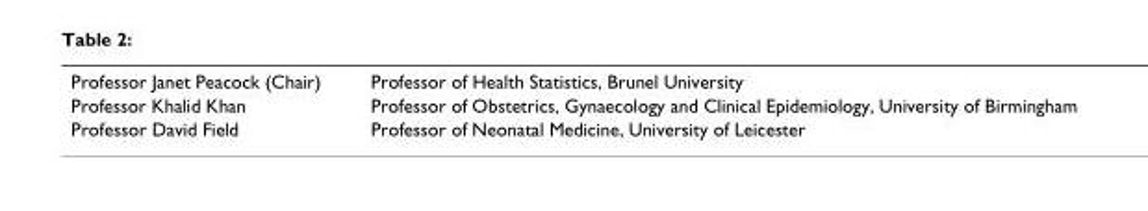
<table><tbody><tr><td>Professor Janet Peacock (Chair)</td><td>Professor of Health Statistics, Brunel University</td></tr><tr><td>Professor Khalid Khan</td><td>Professor of Obstetrics, Gynaecology and Clinical Epidemiology, University of Birmingham</td></tr><tr><td>Professor David Field</td><td>Professor of Neonatal Medicine, University of Leicester</td></tr></tbody></table>